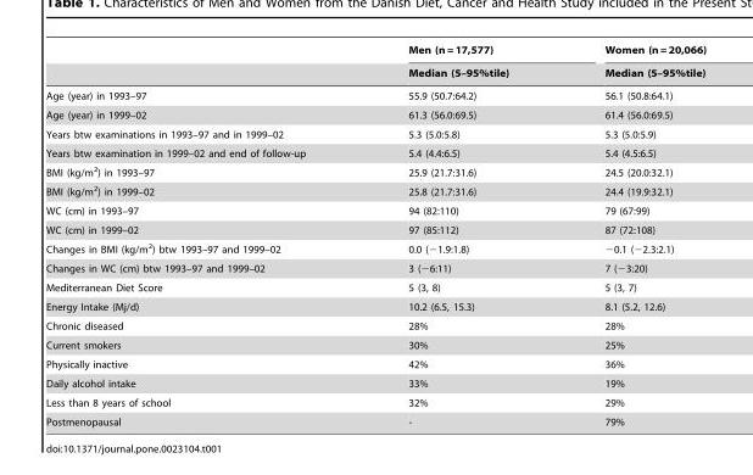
<table><thead><tr><td rowspan="2"></td><td rowspan="2">Men (n = 17,577) Median (5–95%tile)</td><td rowspan="2">Women (n = 20,066) Median (5–95%tile)</td></tr><tr></tr></thead><tbody><tr><td>Age (year) in 1993–97</td><td>55.9 (50.7:64.2)</td><td>56.1 (50.8:64.1)</td></tr><tr><td>Age (year) in 1999–02</td><td>61.3 (56.0:69.5)</td><td>61.4 (56.0:69.5)</td></tr><tr><td>Years btw examinations in 1993–97 and in 1999–02</td><td>5.3 (5.0:5.8)</td><td>5.3 (5.0:5.9)</td></tr><tr><td>Years btw examination in 1999–02 and end of follow-up</td><td>5.4 (4.4:6.5)</td><td>5.4 (4.5:6.5)</td></tr><tr><td>BMI (kg/m<sup>2</sup>) in 1993–97</td><td>25.9 (21.7:31.6)</td><td>24.5 (20.0:32.1)</td></tr><tr><td>BMI (kg/m<sup>2</sup>) in 1999–02</td><td>25.8 (21.7:31.6)</td><td>24.4 (19.9:32.1)</td></tr><tr><td>WC (cm) in 1993–97</td><td>94 (82:110)</td><td>79 (67:99)</td></tr><tr><td>WC (cm) in 1999–02</td><td>97 (85:112)</td><td>87 (72:108)</td></tr><tr><td>Changes in BMI (kg/m<sup>2</sup>) btw 1993–97 and 1999–02</td><td>0.0 (−1.9:1.8)</td><td>−0.1 (−2.3:2.1)</td></tr><tr><td>Changes in WC (cm) btw 1993–97 and 1999–02</td><td>3 (−6:11)</td><td>7 (−3:20)</td></tr><tr><td>Mediterranean Diet Score</td><td>5 (3, 8)</td><td>5 (3, 7)</td></tr><tr><td>Energy Intake (Mj/d)</td><td>10.2 (6.5, 15.3)</td><td>8.1 (5.2, 12.6)</td></tr><tr><td>Chronic diseased</td><td>28%</td><td>28%</td></tr><tr><td>Current smokers</td><td>30%</td><td>25%</td></tr><tr><td>Physically inactive</td><td>42%</td><td>36%</td></tr><tr><td>Daily alcohol intake</td><td>33%</td><td>19%</td></tr><tr><td>Less than 8 years of school</td><td>32%</td><td>29%</td></tr><tr><td>Postmenopausal</td><td>-</td><td>79%</td></tr></tbody></table>